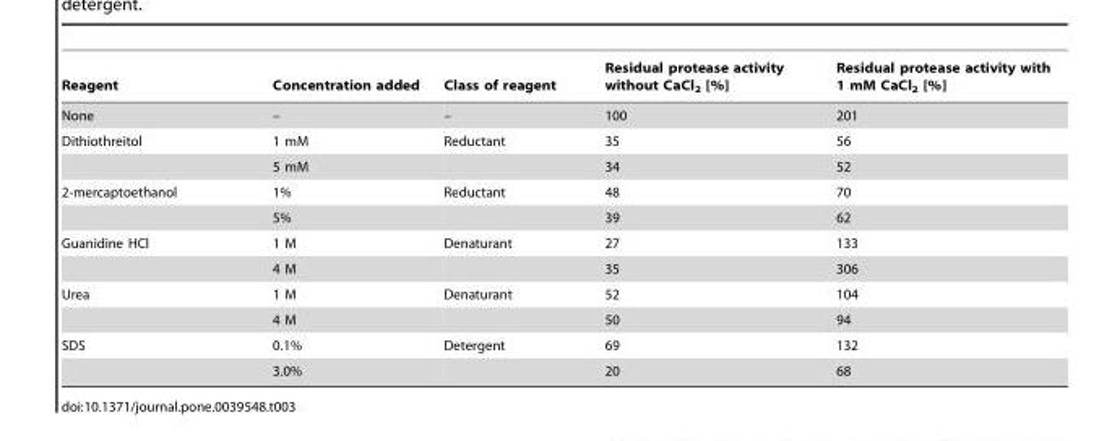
<table><thead><tr><td>Reagent</td><td>Concentration added</td><td>Class of reagent</td><td>Residual protease activity without CaCl<sub>2</sub> [%]</td><td>Residual protease activity with 1 mM CaCl<sub>2</sub> [%]</td></tr></thead><tbody><tr><td>None</td><td>–</td><td>–</td><td>100</td><td>201</td></tr><tr><td rowspan="2">Dithiothreitol</td><td>1 mM</td><td>Reductant</td><td>35</td><td>56</td></tr><tr><td>5 mM</td><td></td><td>34</td><td>52</td></tr><tr><td rowspan="2">2-mercaptoethanol</td><td>1%</td><td>Reductant</td><td>48</td><td>70</td></tr><tr><td>5%</td><td></td><td>39</td><td>62</td></tr><tr><td rowspan="2">Guanidine HCl</td><td>1 M</td><td>Denaturant</td><td>27</td><td>133</td></tr><tr><td>4 M</td><td></td><td>35</td><td>306</td></tr><tr><td rowspan="2">Urea</td><td>1 M</td><td>Denaturant</td><td>52</td><td>104</td></tr><tr><td>4 M</td><td></td><td>50</td><td>94</td></tr><tr><td rowspan="2">SDS</td><td>0.1%</td><td>Detergent</td><td>69</td><td>132</td></tr><tr><td>3.0%</td><td></td><td>20</td><td>68</td></tr></tbody></table>